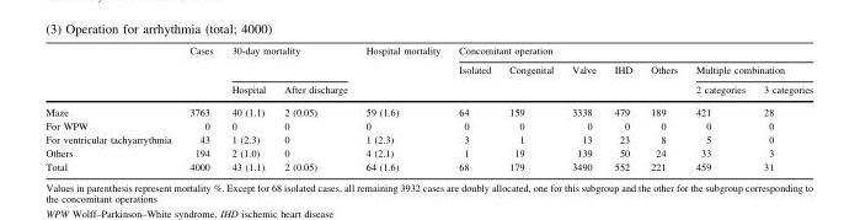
<table><thead><tr><td rowspan="3"></td><td rowspan="3">Cases</td><td rowspan="2" colspan="2">30-day mortality</td><td rowspan="3">Hospital mortality</td><td colspan="7">Concomitant operation</td></tr><tr><td rowspan="2">Isolated</td><td rowspan="2">Congenital</td><td rowspan="2">Valve</td><td rowspan="2">IHD</td><td rowspan="2">Others</td><td colspan="2">Multiple combination</td></tr><tr><td>Hospital</td><td>After discharge</td><td>2 categories</td><td>3 categories</td></tr></thead><tbody><tr><td>Maze</td><td>3763</td><td>40 (1.1)</td><td>2 (0.05)</td><td>59 (1.6)</td><td>64</td><td>159</td><td>3338</td><td>479</td><td>189</td><td>421</td><td>28</td></tr><tr><td>For WPW</td><td>0</td><td>0</td><td>0</td><td>0</td><td>0</td><td>0</td><td>0</td><td>0</td><td>0</td><td>0</td><td>0</td></tr><tr><td>For ventricular tachyarrythmia</td><td>43</td><td>1 (2.3)</td><td>0</td><td>1 (2.3)</td><td>3</td><td>1</td><td>13</td><td>23</td><td>8</td><td>5</td><td>0</td></tr><tr><td>Others</td><td>194</td><td>2 (1.0)</td><td>0</td><td>4 (2.1)</td><td>1</td><td>19</td><td>139</td><td>50</td><td>24</td><td>33</td><td>3</td></tr><tr><td>Total</td><td>4000</td><td>43 (1.1)</td><td>2 (0.05)</td><td>64 (1.6)</td><td>68</td><td>179</td><td>3490</td><td>552</td><td>221</td><td>459</td><td>31</td></tr></tbody></table>